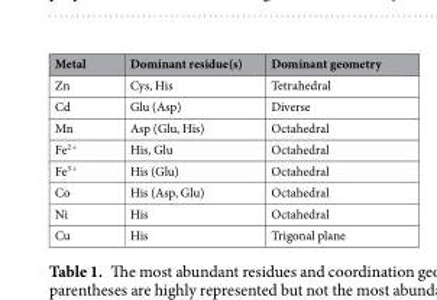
<table><thead><tr><td>Metal</td><td>Dominant residue(s)</td><td>Dominant geometry</td></tr></thead><tbody><tr><td>Zn</td><td>Cys, His</td><td>Tetrahedral</td></tr><tr><td>Cd</td><td>Glu (Asp)</td><td>Diverse</td></tr><tr><td>Mn</td><td>Asp (Glu, His)</td><td>Octahedral</td></tr><tr><td>Fe<sup>2+</sup></td><td>His, Glu</td><td>Octahedral</td></tr><tr><td>Fe<sup>3+</sup></td><td>His (Glu)</td><td>Octahedral</td></tr><tr><td>Co</td><td>His (Asp, Glu)</td><td>Octahedral</td></tr><tr><td>Ni</td><td>His</td><td>Octahedral</td></tr><tr><td>Cu</td><td>His</td><td>Trigonal plane</td></tr></tbody></table>